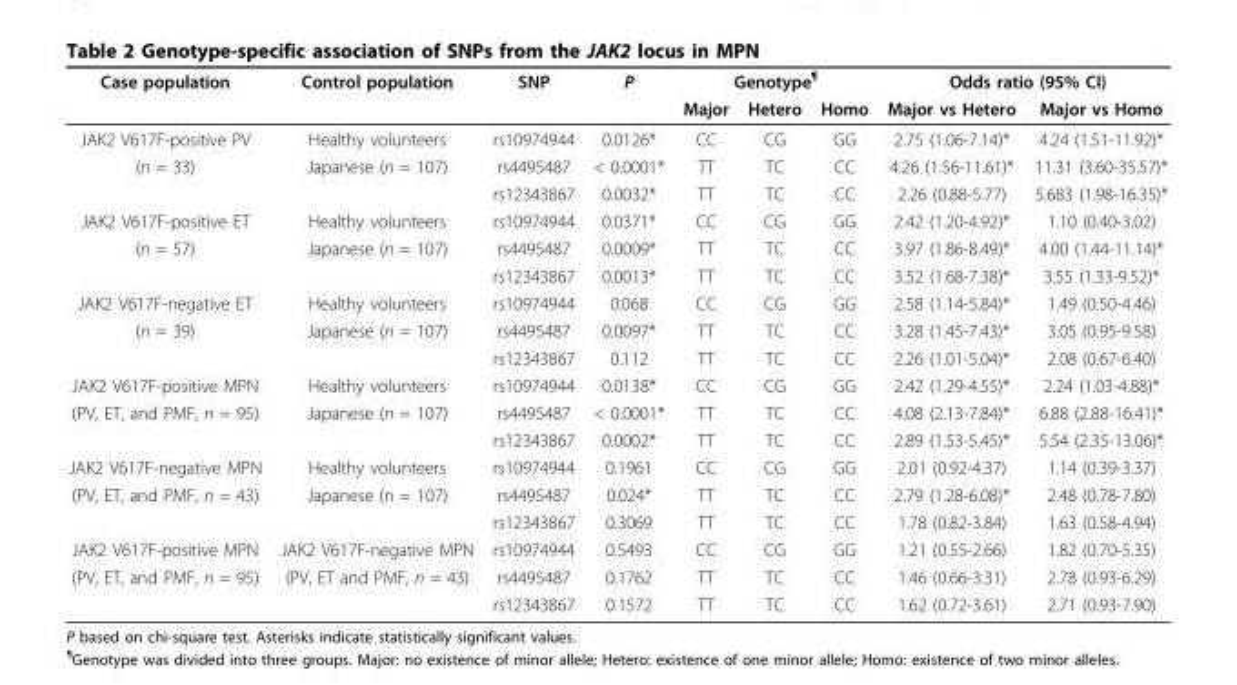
<table><thead><tr><td rowspan="2">Case population</td><td rowspan="2">Control population</td><td rowspan="2">SNP</td><td rowspan="2">P</td><td colspan="3">Genotype<sup>¶</sup></td><td colspan="2">Odds ratio (95% CI)</td></tr><tr><td>Major</td><td>Hetero</td><td>Homo</td><td>Major vs Hetero</td><td>Major vs Homo</td></tr></thead><tbody><tr><td>JAK2 V617F-positive PV</td><td>Healthy volunteers</td><td>rs10974944</td><td>0.0126*</td><td>CC</td><td>CG</td><td>GG</td><td>2.75 (1.06-7.14)*</td><td>4.24 (1.51-11.92)*</td></tr><tr><td rowspan="2">(n = 33)</td><td>Japanese (n = 107)</td><td>rs4495487</td><td>&lt; 0.0001*</td><td>TT</td><td>TC</td><td>CC</td><td>4.26 (1.56-11.61)*</td><td>11.31 (3.60-35.57)*</td></tr><tr><td></td><td>rs12343867</td><td>0.0032*</td><td>TT</td><td>TC</td><td>CC</td><td>2.26 (0.88-5.77)</td><td>5.683 (1.98-16.35)*</td></tr><tr><td>JAK2 V617F-positive ET</td><td>Healthy volunteers</td><td>rs10974944</td><td>0.0371*</td><td>CC</td><td>CG</td><td>GG</td><td>2.42 (1.20-4.92)*</td><td>1.10 (0.40-3.02)</td></tr><tr><td rowspan="2">(n = 57)</td><td>Japanese (n = 107)</td><td>rs4495487</td><td>0.0009*</td><td>TT</td><td>TC</td><td>CC</td><td>3.97 (1.86-8.49)*</td><td>4.00 (1.44-11.14)*</td></tr><tr><td></td><td>rs12343867</td><td>0.0013*</td><td>TT</td><td>TC</td><td>CC</td><td>3.52 (1.68-7.38)*</td><td>3.55 (1.33-9.52)*</td></tr><tr><td>JAK2 V617F-negative ET</td><td>Healthy volunteers</td><td>rs10974944</td><td>0.068</td><td>CC</td><td>CG</td><td>GG</td><td>2.58 (1.14-5.84)*</td><td>1.49 (0.50-4.46)</td></tr><tr><td rowspan="2">(n = 39)</td><td>Japanese (n = 107)</td><td>rs4495487</td><td>0.0097*</td><td>TT</td><td>TC</td><td>CC</td><td>3.28 (1.45-7.43)*</td><td>3.05 (0.95-9.58)</td></tr><tr><td></td><td>rs12343867</td><td>0.112</td><td>TT</td><td>TC</td><td>CC</td><td>2.26 (1.01-5.04)*</td><td>2.08 (0.67-6.40)</td></tr><tr><td>JAK2 V617F-positive MPN</td><td>Healthy volunteers</td><td>rs10974944</td><td>0.0138*</td><td>CC</td><td>CG</td><td>GG</td><td>2.42 (1.29-4.55)*</td><td>2.24 (1.03-4.88)*</td></tr><tr><td rowspan="2">(PV, ET, and PMF, n = 95)</td><td>Japanese (n = 107)</td><td>rs4495487</td><td>&lt; 0.0001*</td><td>TT</td><td>TC</td><td>CC</td><td>4.08 (2.13-7.84)*</td><td>6.88 (2.88-16.41)*</td></tr><tr><td></td><td>rs12343867</td><td>0.0002*</td><td>TT</td><td>TC</td><td>CC</td><td>2.89 (1.53-5.45)*</td><td>5.54 (2.35-13.06)*</td></tr><tr><td>JAK2 V617F-negative MPN</td><td>Healthy volunteers</td><td>rs10974944</td><td>0.1961</td><td>CC</td><td>CG</td><td>GG</td><td>2.01 (0.92-4.37)</td><td>1.14 (0.39-3.37)</td></tr><tr><td rowspan="2">(PV, ET, and PMF, n = 43)</td><td>Japanese (n = 107)</td><td>rs4495487</td><td>0.024*</td><td>TT</td><td>TC</td><td>CC</td><td>2.79 (1.28-6.08)*</td><td>2.48 (0.78-7.80)</td></tr><tr><td></td><td>rs12343867</td><td>0.3069</td><td>TT</td><td>TC</td><td>CC</td><td>1.78 (0.82-3.84)</td><td>1.63 (0.58-4.94)</td></tr><tr><td>JAK2 V617F-positive MPN</td><td>JAK2 V617F-negative MPN</td><td>rs10974944</td><td>0.5493</td><td>CC</td><td>CG</td><td>GG</td><td>1.21 (0.55-2.66)</td><td>1.82 (0.70-5.35)</td></tr><tr><td rowspan="2">(PV, ET, and PMF, n = 95)</td><td>(PV, ET and PMF, n = 43)</td><td>rs4495487</td><td>0.1762</td><td>TT</td><td>TC</td><td>CC</td><td>1.46 (0.66-3.31)</td><td>2.78 (0.93-6.29)</td></tr><tr><td></td><td>rs12343867</td><td>0.1572</td><td>TT</td><td>TC</td><td>CC</td><td>1.62 (0.72-3.61)</td><td>2.71 (0.93-7.90)</td></tr></tbody></table>